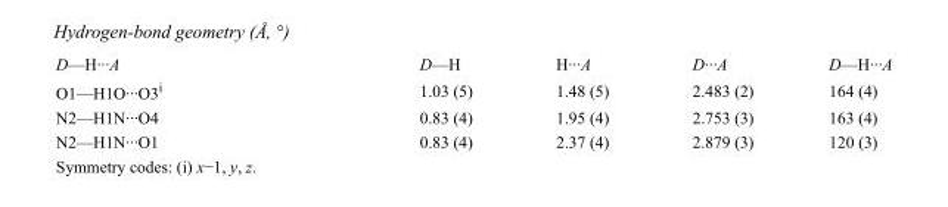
<table><tbody><tr><td>D—H···A</td><td>D—H</td><td>H···A</td><td>D···A</td><td>D—H···A</td></tr><tr><td>O1—H1O···O3<sup>i</sup></td><td>1.03 (5)</td><td>1.48 (5)</td><td>2.483 (2)</td><td>164 (4)</td></tr><tr><td>N2—H1N···O4</td><td>0.83 (4)</td><td>1.95 (4)</td><td>2.753 (3)</td><td>163 (4)</td></tr><tr><td>N2—H1N···O1</td><td>0.83 (4)</td><td>2.37 (4)</td><td>2.879 (3)</td><td>120 (3)</td></tr></tbody></table>